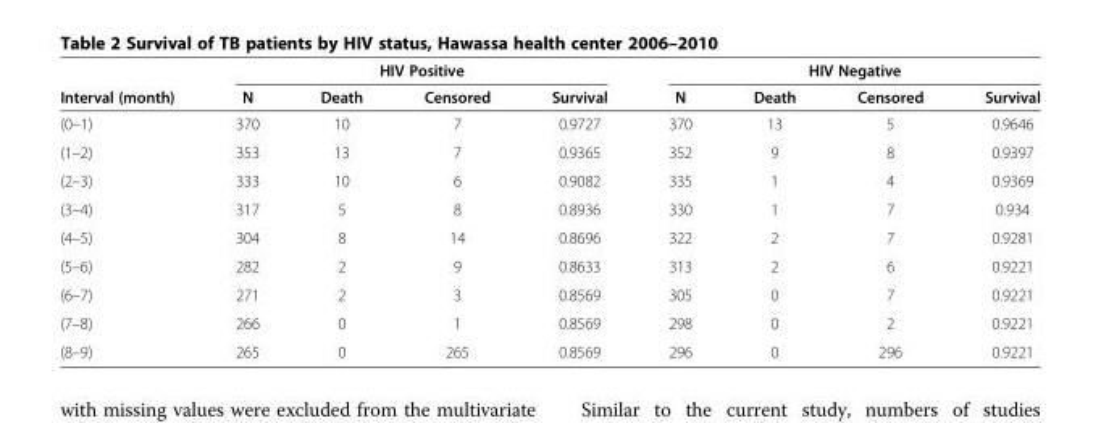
<table><thead><tr><td rowspan="2">Interval (month)</td><td colspan="4">HIV Positive</td><td colspan="4">HIV Negative</td></tr><tr><td>N</td><td>Death</td><td>Censored</td><td>Survival</td><td>N</td><td>Death</td><td>Censored</td><td>Survival</td></tr></thead><tbody><tr><td>(0–1)</td><td>370</td><td>10</td><td>7</td><td>0.9727</td><td>370</td><td>13</td><td>5</td><td>0.9646</td></tr><tr><td>(1–2)</td><td>353</td><td>13</td><td>7</td><td>0.9365</td><td>352</td><td>9</td><td>8</td><td>0.9397</td></tr><tr><td>(2–3)</td><td>333</td><td>10</td><td>6</td><td>0.9082</td><td>335</td><td>1</td><td>4</td><td>0.9369</td></tr><tr><td>(3–4)</td><td>317</td><td>5</td><td>8</td><td>0.8936</td><td>330</td><td>1</td><td>7</td><td>0.934</td></tr><tr><td>(4–5)</td><td>304</td><td>8</td><td>14</td><td>0.8696</td><td>322</td><td>2</td><td>7</td><td>0.9281</td></tr><tr><td>(5–6)</td><td>282</td><td>2</td><td>9</td><td>0.8633</td><td>313</td><td>2</td><td>6</td><td>0.9221</td></tr><tr><td>(6–7)</td><td>271</td><td>2</td><td>3</td><td>0.8569</td><td>305</td><td>0</td><td>7</td><td>0.9221</td></tr><tr><td>(7–8)</td><td>266</td><td>0</td><td>1</td><td>0.8569</td><td>298</td><td>0</td><td>2</td><td>0.9221</td></tr><tr><td>(8–9)</td><td>265</td><td>0</td><td>265</td><td>0.8569</td><td>296</td><td>0</td><td>296</td><td>0.9221</td></tr></tbody></table>